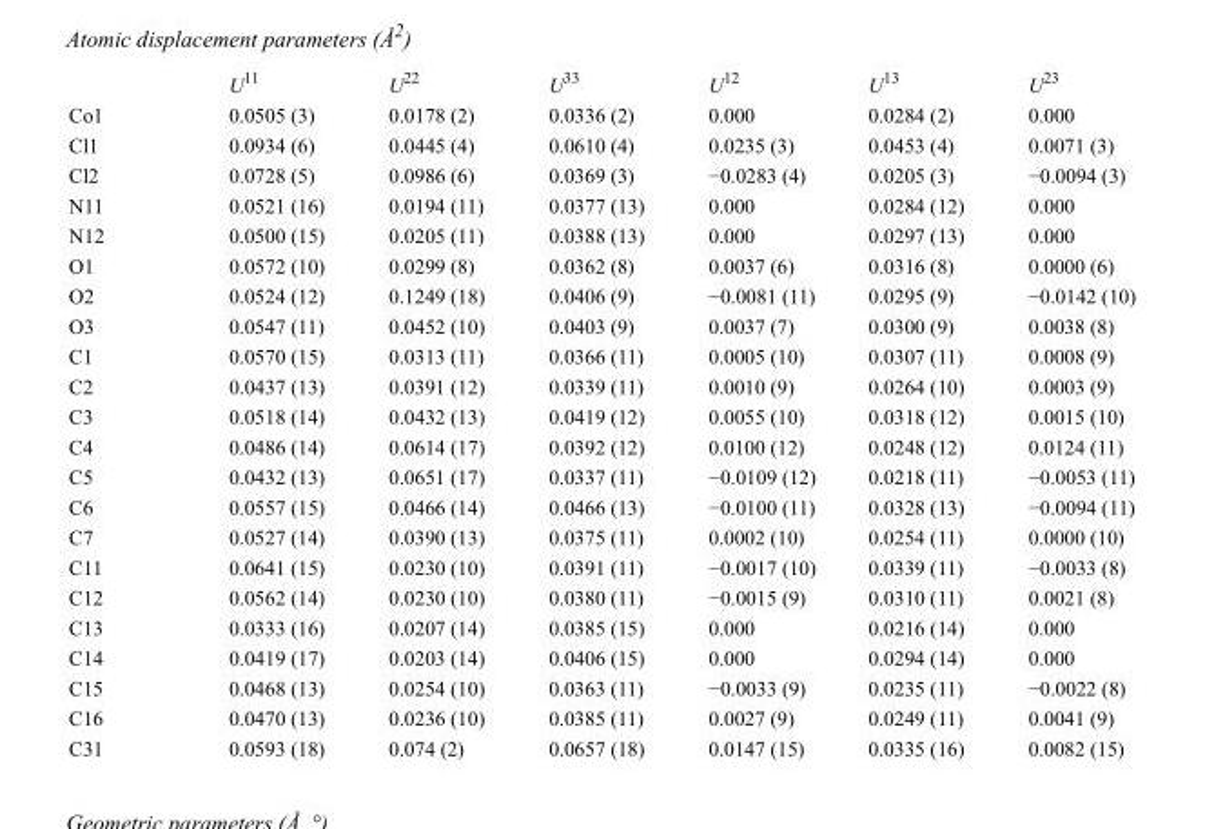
<table><thead><tr><td></td><td>U<sup>11</sup></td><td>U<sup>22</sup></td><td>U<sup>33</sup></td><td>U<sup>12</sup></td><td>U<sup>13</sup></td><td>U<sup>23</sup></td></tr></thead><tbody><tr><td>Co1</td><td>0.0505 (3)</td><td>0.0178 (2)</td><td>0.0336 (2)</td><td>0.000</td><td>0.0284 (2)</td><td>0.000</td></tr><tr><td>Cl1</td><td>0.0934 (6)</td><td>0.0445 (4)</td><td>0.0610 (4)</td><td>0.0235 (3)</td><td>0.0453 (4)</td><td>0.0071 (3)</td></tr><tr><td>Cl2</td><td>0.0728 (5)</td><td>0.0986 (6)</td><td>0.0369 (3)</td><td>−0.0283 (4)</td><td>0.0205 (3)</td><td>−0.0094 (3)</td></tr><tr><td>N11</td><td>0.0521 (16)</td><td>0.0194 (11)</td><td>0.0377 (13)</td><td>0.000</td><td>0.0284 (12)</td><td>0.000</td></tr><tr><td>N12</td><td>0.0500 (15)</td><td>0.0205 (11)</td><td>0.0388 (13)</td><td>0.000</td><td>0.0297 (13)</td><td>0.000</td></tr><tr><td>O1</td><td>0.0572 (10)</td><td>0.0299 (8)</td><td>0.0362 (8)</td><td>0.0037 (6)</td><td>0.0316 (8)</td><td>0.0000 (6)</td></tr><tr><td>O2</td><td>0.0524 (12)</td><td>0.1249 (18)</td><td>0.0406 (9)</td><td>−0.0081 (11)</td><td>0.0295 (9)</td><td>−0.0142 (10)</td></tr><tr><td>O3</td><td>0.0547 (11)</td><td>0.0452 (10)</td><td>0.0403 (9)</td><td>0.0037 (7)</td><td>0.0300 (9)</td><td>0.0038 (8)</td></tr><tr><td>C1</td><td>0.0570 (15)</td><td>0.0313 (11)</td><td>0.0366 (11)</td><td>0.0005 (10)</td><td>0.0307 (11)</td><td>0.0008 (9)</td></tr><tr><td>C2</td><td>0.0437 (13)</td><td>0.0391 (12)</td><td>0.0339 (11)</td><td>0.0010 (9)</td><td>0.0264 (10)</td><td>0.0003 (9)</td></tr><tr><td>C3</td><td>0.0518 (14)</td><td>0.0432 (13)</td><td>0.0419 (12)</td><td>0.0055 (10)</td><td>0.0318 (12)</td><td>0.0015 (10)</td></tr><tr><td>C4</td><td>0.0486 (14)</td><td>0.0614 (17)</td><td>0.0392 (12)</td><td>0.0100 (12)</td><td>0.0248 (12)</td><td>0.0124 (11)</td></tr><tr><td>C5</td><td>0.0432 (13)</td><td>0.0651 (17)</td><td>0.0337 (11)</td><td>−0.0109 (12)</td><td>0.0218 (11)</td><td>−0.0053 (11)</td></tr><tr><td>C6</td><td>0.0557 (15)</td><td>0.0466 (14)</td><td>0.0466 (13)</td><td>−0.0100 (11)</td><td>0.0328 (13)</td><td>−0.0094 (11)</td></tr><tr><td>C7</td><td>0.0527 (14)</td><td>0.0390 (13)</td><td>0.0375 (11)</td><td>0.0002 (10)</td><td>0.0254 (11)</td><td>0.0000 (10)</td></tr><tr><td>C11</td><td>0.0641 (15)</td><td>0.0230 (10)</td><td>0.0391 (11)</td><td>−0.0017 (10)</td><td>0.0339 (11)</td><td>−0.0033 (8)</td></tr><tr><td>C12</td><td>0.0562 (14)</td><td>0.0230 (10)</td><td>0.0380 (11)</td><td>−0.0015 (9)</td><td>0.0310 (11)</td><td>0.0021 (8)</td></tr><tr><td>C13</td><td>0.0333 (16)</td><td>0.0207 (14)</td><td>0.0385 (15)</td><td>0.000</td><td>0.0216 (14)</td><td>0.000</td></tr><tr><td>C14</td><td>0.0419 (17)</td><td>0.0203 (14)</td><td>0.0406 (15)</td><td>0.000</td><td>0.0294 (14)</td><td>0.000</td></tr><tr><td>C15</td><td>0.0468 (13)</td><td>0.0254 (10)</td><td>0.0363 (11)</td><td>−0.0033 (9)</td><td>0.0235 (11)</td><td>−0.0022 (8)</td></tr><tr><td>C16</td><td>0.0470 (13)</td><td>0.0236 (10)</td><td>0.0385 (11)</td><td>0.0027 (9)</td><td>0.0249 (11)</td><td>0.0041 (9)</td></tr><tr><td>C31</td><td>0.0593 (18)</td><td>0.074 (2)</td><td>0.0657 (18)</td><td>0.0147 (15)</td><td>0.0335 (16)</td><td>0.0082 (15)</td></tr></tbody></table>